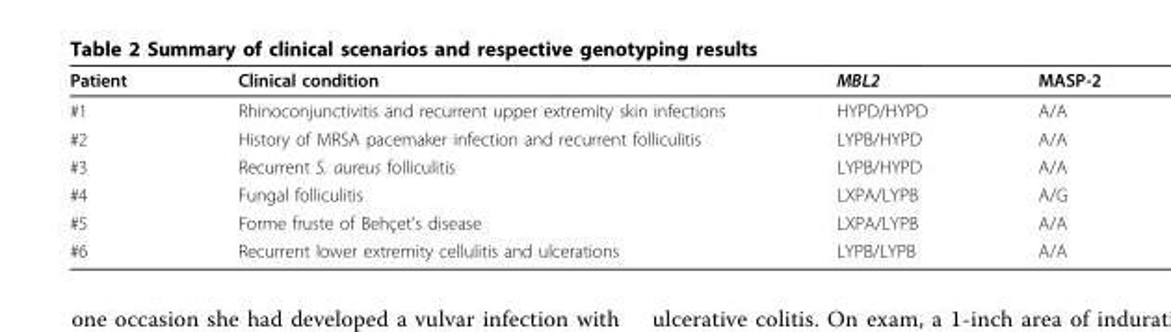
<table><thead><tr><td>Patient</td><td>Clinical condition</td><td>MBL2</td><td>MASP-2</td></tr></thead><tbody><tr><td>#1</td><td>Rhinoconjunctivitis and recurrent upper extremity skin infections</td><td>HYPD/HYPD</td><td>A/A</td></tr><tr><td>#2</td><td>History of MRSA pacemaker infection and recurrent folliculitis</td><td>LYPB/HYPD</td><td>A/A</td></tr><tr><td>#3</td><td>Recurrent S. aureus folliculitis</td><td>LYPB/HYPD</td><td>A/A</td></tr><tr><td>#4</td><td>Fungal folliculitis</td><td>LXPA/LYPB</td><td>A/G</td></tr><tr><td>#5</td><td>Forme fruste of Behçet’s disease</td><td>LXPA/LYPB</td><td>A/A</td></tr><tr><td>#6</td><td>Recurrent lower extremity cellulitis and ulcerations</td><td>LYPB/LYPB</td><td>A/A</td></tr></tbody></table>